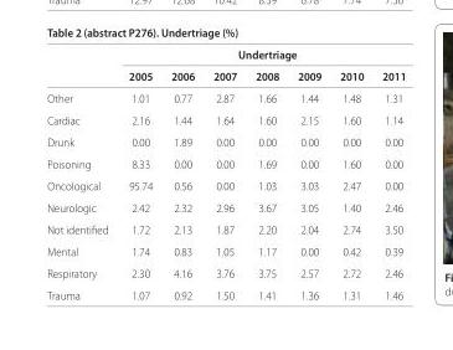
<table><thead><tr><td rowspan="2"></td><td rowspan="2">2005</td><td rowspan="2">2006</td><td colspan="3">Undertriage</td><td rowspan="2">2010</td><td rowspan="2">2011</td></tr><tr><td>2007</td><td>2008</td><td>2009</td></tr></thead><tbody><tr><td>Other</td><td>1.01</td><td>0.77</td><td>2.87</td><td>1.66</td><td>1.44</td><td>1.48</td><td>1.31</td></tr><tr><td>Cardiac</td><td>2.16</td><td>1.44</td><td>1.64</td><td>1.60</td><td>2.15</td><td>1.60</td><td>1.14</td></tr><tr><td>Drunk</td><td>0.00</td><td>1.89</td><td>0.00</td><td>0.00</td><td>0.00</td><td>0.00</td><td>0.00</td></tr><tr><td>Poisoning</td><td>8.33</td><td>0.00</td><td>0.00</td><td>1.69</td><td>0.00</td><td>1.60</td><td>0.00</td></tr><tr><td>Oncological</td><td>95.74</td><td>0.56</td><td>0.00</td><td>1.03</td><td>3.03</td><td>2.47</td><td>0.00</td></tr><tr><td>Neurologic</td><td>2.42</td><td>2.32</td><td>2.96</td><td>3.67</td><td>3.05</td><td>1.40</td><td>2.46</td></tr><tr><td>Not identifi ed</td><td>1.72</td><td>2.13</td><td>1.87</td><td>2.20</td><td>2.04</td><td>2.74</td><td>3.50</td></tr><tr><td>Mental</td><td>1.74</td><td>0.83</td><td>1.05</td><td>1.17</td><td>0.00</td><td>0.42</td><td>0.39</td></tr><tr><td>Respiratory</td><td>2.30</td><td>4.16</td><td>3.76</td><td>3.75</td><td>2.57</td><td>2.72</td><td>2.46</td></tr><tr><td>Trauma</td><td>1.07</td><td>0.92</td><td>1.50</td><td>1.41</td><td>1.36</td><td>1.31</td><td>1.46</td></tr></tbody></table>